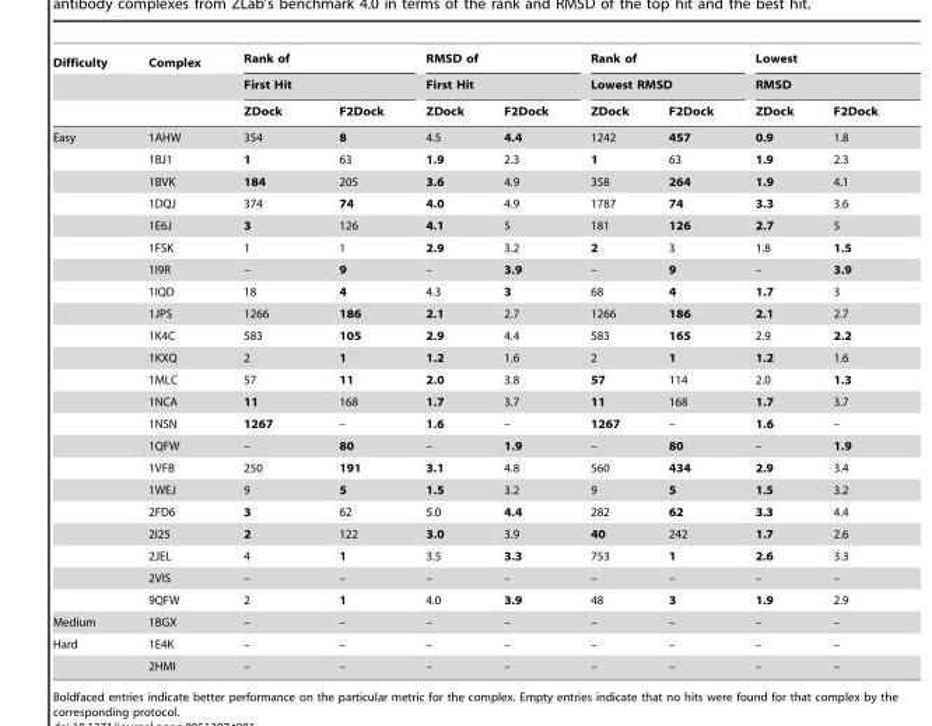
<table><thead><tr><td rowspan="3">Difficulty</td><td rowspan="3">Complex</td><td rowspan="2" colspan="2">Rank of First Hit</td><td rowspan="2" colspan="2">RMSD of First Hit</td><td rowspan="2" colspan="2">Rank of Lowest RMSD</td><td rowspan="2" colspan="2">Lowest RMSD</td></tr><tr></tr><tr><td>ZDock</td><td>F2Dock</td><td>ZDock</td><td>F2Dock</td><td>ZDock</td><td>F2Dock</td><td>ZDock</td><td>F2Dock</td></tr></thead><tbody><tr><td rowspan="22">Easy</td><td>1AHW</td><td>354</td><td>8</td><td>4.5</td><td>4.4</td><td>1242</td><td>457</td><td>0.9</td><td>1.8</td></tr><tr><td>1BJ1</td><td>1</td><td>63</td><td>1.9</td><td>2.3</td><td>1</td><td>63</td><td>1.9</td><td>2.3</td></tr><tr><td>1BVK</td><td>184</td><td>205</td><td>3.6</td><td>4.9</td><td>358</td><td>264</td><td>1.9</td><td>4.1</td></tr><tr><td>1DQJ</td><td>374</td><td>74</td><td>4.0</td><td>4.9</td><td>1787</td><td>74</td><td>3.3</td><td>3.6</td></tr><tr><td>1E6J</td><td>3</td><td>126</td><td>4.1</td><td>5</td><td>181</td><td>126</td><td>2.7</td><td>5</td></tr><tr><td>1FSK</td><td>1</td><td>1</td><td>2.9</td><td>3.2</td><td>2</td><td>3</td><td>1.8</td><td>1.5</td></tr><tr><td>1I9R</td><td>–</td><td>9</td><td>–</td><td>3.9</td><td>–</td><td>9</td><td>–</td><td>3.9</td></tr><tr><td>1IQD</td><td>18</td><td>4</td><td>4.3</td><td>3</td><td>68</td><td>4</td><td>1.7</td><td>3</td></tr><tr><td>1JPS</td><td>1266</td><td>186</td><td>2.1</td><td>2.7</td><td>1266</td><td>186</td><td>2.1</td><td>2.7</td></tr><tr><td>1K4C</td><td>583</td><td>105</td><td>2.9</td><td>4.4</td><td>583</td><td>165</td><td>2.9</td><td>2.2</td></tr><tr><td>1KXQ</td><td>2</td><td>1</td><td>1.2</td><td>1.6</td><td>2</td><td>1</td><td>1.2</td><td>1.6</td></tr><tr><td>1MLC</td><td>57</td><td>11</td><td>2.0</td><td>3.8</td><td>57</td><td>114</td><td>2.0</td><td>1.3</td></tr><tr><td>1NCA</td><td>11</td><td>168</td><td>1.7</td><td>3.7</td><td>11</td><td>168</td><td>1.7</td><td>3.7</td></tr><tr><td>1NSN</td><td>1267</td><td>–</td><td>1.6</td><td>–</td><td>1267</td><td>–</td><td>1.6</td><td>–</td></tr><tr><td>1QFW</td><td>–</td><td>80</td><td>–</td><td>1.9</td><td>–</td><td>80</td><td>–</td><td>1.9</td></tr><tr><td>1VFB</td><td>250</td><td>191</td><td>3.1</td><td>4.8</td><td>560</td><td>434</td><td>2.9</td><td>3.4</td></tr><tr><td>1WEJ</td><td>9</td><td>5</td><td>1.5</td><td>3.2</td><td>9</td><td>5</td><td>1.5</td><td>3.2</td></tr><tr><td>2FD6</td><td>3</td><td>62</td><td>5.0</td><td>4.4</td><td>282</td><td>62</td><td>3.3</td><td>4.4</td></tr><tr><td>2I25</td><td>2</td><td>122</td><td>3.0</td><td>3.9</td><td>40</td><td>242</td><td>1.7</td><td>2.6</td></tr><tr><td>2JEL</td><td>4</td><td>1</td><td>3.5</td><td>3.3</td><td>753</td><td>1</td><td>2.6</td><td>3.3</td></tr><tr><td>2VIS</td><td>–</td><td>–</td><td>–</td><td>–</td><td>–</td><td>–</td><td>–</td><td>–</td></tr><tr><td>9QFW</td><td>2</td><td>1</td><td>4.0</td><td>3.9</td><td>48</td><td>3</td><td>1.9</td><td>2.9</td></tr><tr><td>Medium</td><td>1BGX</td><td>–</td><td>–</td><td>–</td><td>–</td><td>–</td><td>–</td><td>–</td><td>–</td></tr><tr><td rowspan="2">Hard</td><td>1E4K</td><td>–</td><td>–</td><td>–</td><td>–</td><td>–</td><td>–</td><td>–</td><td>–</td></tr><tr><td>2HMI</td><td>–</td><td>–</td><td>–</td><td>–</td><td>–</td><td>–</td><td>–</td><td>–</td></tr></tbody></table>